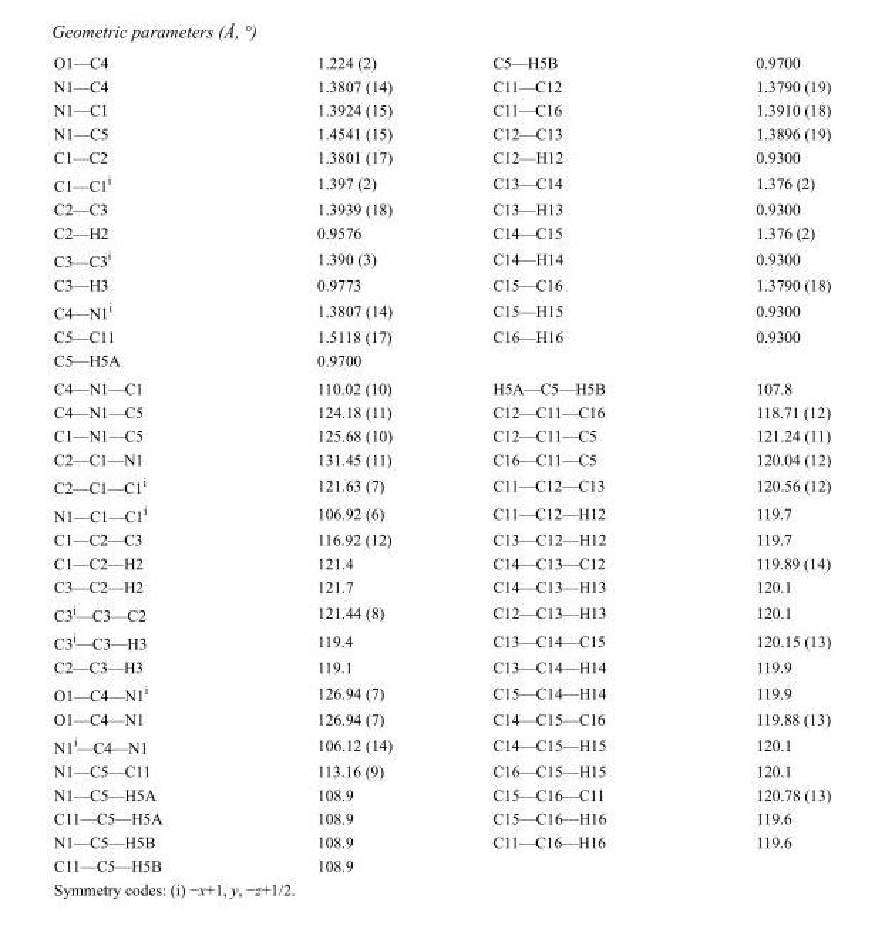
<table><tbody><tr><td>O1—C4</td><td>1.224 (2)</td><td>C5—H5B</td><td>0.9700</td></tr><tr><td>N1—C4</td><td>1.3807 (14)</td><td>C11—C12</td><td>1.3790 (19)</td></tr><tr><td>N1—C1</td><td>1.3924 (15)</td><td>C11—C16</td><td>1.3910 (18)</td></tr><tr><td>N1—C5</td><td>1.4541 (15)</td><td>C12—C13</td><td>1.3896 (19)</td></tr><tr><td>C1—C2</td><td>1.3801 (17)</td><td>C12—H12</td><td>0.9300</td></tr><tr><td>C1—C1<sup>i</sup></td><td>1.397 (2)</td><td>C13—C14</td><td>1.376 (2)</td></tr><tr><td>C2—C3</td><td>1.3939 (18)</td><td>C13—H13</td><td>0.9300</td></tr><tr><td>C2—H2</td><td>0.9576</td><td>C14—C15</td><td>1.376 (2)</td></tr><tr><td>C3—C3<sup>i</sup></td><td>1.390 (3)</td><td>C14—H14</td><td>0.9300</td></tr><tr><td>C3—H3</td><td>0.9773</td><td>C15—C16</td><td>1.3790 (18)</td></tr><tr><td>C4—N1<sup>i</sup></td><td>1.3807 (14)</td><td>C15—H15</td><td>0.9300</td></tr><tr><td>C5—C11</td><td>1.5118 (17)</td><td>C16—H16</td><td>0.9300</td></tr><tr><td>C5—H5A</td><td>0.9700</td><td></td><td></td></tr><tr><td>C4—N1—C1</td><td>110.02 (10)</td><td>H5A—C5—H5B</td><td>107.8</td></tr><tr><td>C4—N1—C5</td><td>124.18 (11)</td><td>C12—C11—C16</td><td>118.71 (12)</td></tr><tr><td>C1—N1—C5</td><td>125.68 (10)</td><td>C12—C11—C5</td><td>121.24 (11)</td></tr><tr><td>C2—C1—N1</td><td>131.45 (11)</td><td>C16—C11—C5</td><td>120.04 (12)</td></tr><tr><td>C2—C1—C1<sup>i</sup></td><td>121.63 (7)</td><td>C11—C12—C13</td><td>120.56 (12)</td></tr><tr><td>N1—C1—C1<sup>i</sup></td><td>106.92 (6)</td><td>C11—C12—H12</td><td>119.7</td></tr><tr><td>C1—C2—C3</td><td>116.92 (12)</td><td>C13—C12—H12</td><td>119.7</td></tr><tr><td>C1—C2—H2</td><td>121.4</td><td>C14—C13—C12</td><td>119.89 (14)</td></tr><tr><td>C3—C2—H2</td><td>121.7</td><td>C14—C13—H13</td><td>120.1</td></tr><tr><td>C3<sup>i</sup>—C3—C2</td><td>121.44 (8)</td><td>C12—C13—H13</td><td>120.1</td></tr><tr><td>C3<sup>i</sup>—C3—H3</td><td>119.4</td><td>C13—C14—C15</td><td>120.15 (13)</td></tr><tr><td>C2—C3—H3</td><td>119.1</td><td>C13—C14—H14</td><td>119.9</td></tr><tr><td>O1—C4—N1<sup>i</sup></td><td>126.94 (7)</td><td>C15—C14—H14</td><td>119.9</td></tr><tr><td>O1—C4—N1</td><td>126.94 (7)</td><td>C14—C15—C16</td><td>119.88 (13)</td></tr><tr><td>N1<sup>i</sup>—C4—N1</td><td>106.12 (14)</td><td>C14—C15—H15</td><td>120.1</td></tr><tr><td>N1—C5—C11</td><td>113.16 (9)</td><td>C16—C15—H15</td><td>120.1</td></tr><tr><td>N1—C5—H5A</td><td>108.9</td><td>C15—C16—C11</td><td>120.78 (13)</td></tr><tr><td>C11—C5—H5A</td><td>108.9</td><td>C15—C16—H16</td><td>119.6</td></tr><tr><td>N1—C5—H5B</td><td>108.9</td><td>C11—C16—H16</td><td>119.6</td></tr><tr><td>C11—C5—H5B</td><td>108.9</td><td></td><td></td></tr></tbody></table>